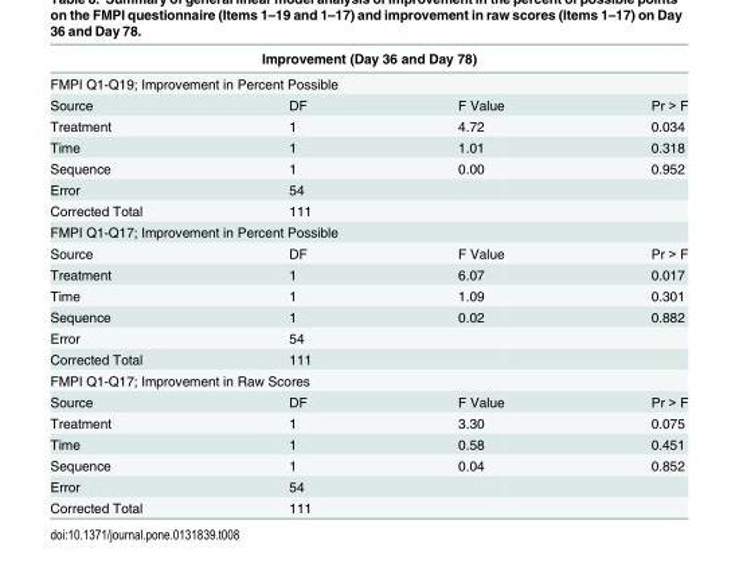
<table><thead><tr><td rowspan="2" colspan="4">Improvement (Day 36 and Day 78) FMPI Q1-Q19; Improvement in Percent Possible</td></tr><tr></tr><tr><td>Source</td><td>DF</td><td>F Value</td><td>Pr &gt; F</td></tr></thead><tbody><tr><td>Treatment</td><td>1</td><td>4.72</td><td>0.034</td></tr><tr><td>Time</td><td>1</td><td>1.01</td><td>0.318</td></tr><tr><td>Sequence</td><td>1</td><td>0.00</td><td>0.952</td></tr><tr><td>Error</td><td>54</td><td></td><td></td></tr><tr><td>Corrected Total</td><td>111</td><td></td><td></td></tr><tr><td colspan="4">FMPI Q1-Q17; Improvement in Percent Possible</td></tr><tr><td>Source</td><td>DF</td><td>F Value</td><td>Pr &gt; F</td></tr><tr><td>Treatment</td><td>1</td><td>6.07</td><td>0.017</td></tr><tr><td>Time</td><td>1</td><td>1.09</td><td>0.301</td></tr><tr><td>Sequence</td><td>1</td><td>0.02</td><td>0.882</td></tr><tr><td>Error</td><td>54</td><td></td><td></td></tr><tr><td>Corrected Total</td><td>111</td><td></td><td></td></tr><tr><td colspan="4">FMPI Q1-Q17; Improvement in Raw Scores</td></tr><tr><td>Source</td><td>DF</td><td>F Value</td><td>Pr &gt; F</td></tr><tr><td>Treatment</td><td>1</td><td>3.30</td><td>0.075</td></tr><tr><td>Time</td><td>1</td><td>0.58</td><td>0.451</td></tr><tr><td>Sequence</td><td>1</td><td>0.04</td><td>0.852</td></tr><tr><td>Error</td><td>54</td><td></td><td></td></tr><tr><td>Corrected Total</td><td>111</td><td></td><td></td></tr></tbody></table>